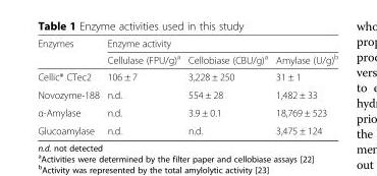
<table><thead><tr><td rowspan="2">Enzymes</td><td colspan="3">Enzyme activity</td></tr><tr><td>Cellulase (FPU/g)<sup>a</sup></td><td>Cellobiase (CBU/g)<sup>a</sup></td><td>Amylase (U/g)<sup>b</sup></td></tr></thead><tbody><tr><td>Cellic® CTec2</td><td>106 ± 7</td><td>3,228 ± 250</td><td>31 ± 1</td></tr><tr><td>Novozyme-188</td><td>n.d.</td><td>554 ± 28</td><td>1,482 ± 33</td></tr><tr><td>α-Amylase</td><td>n.d.</td><td>3.9 ± 0.1</td><td>18,769 ± 523</td></tr><tr><td>Glucoamylase</td><td>n.d.</td><td>n.d.</td><td>3,475 ± 124</td></tr></tbody></table>